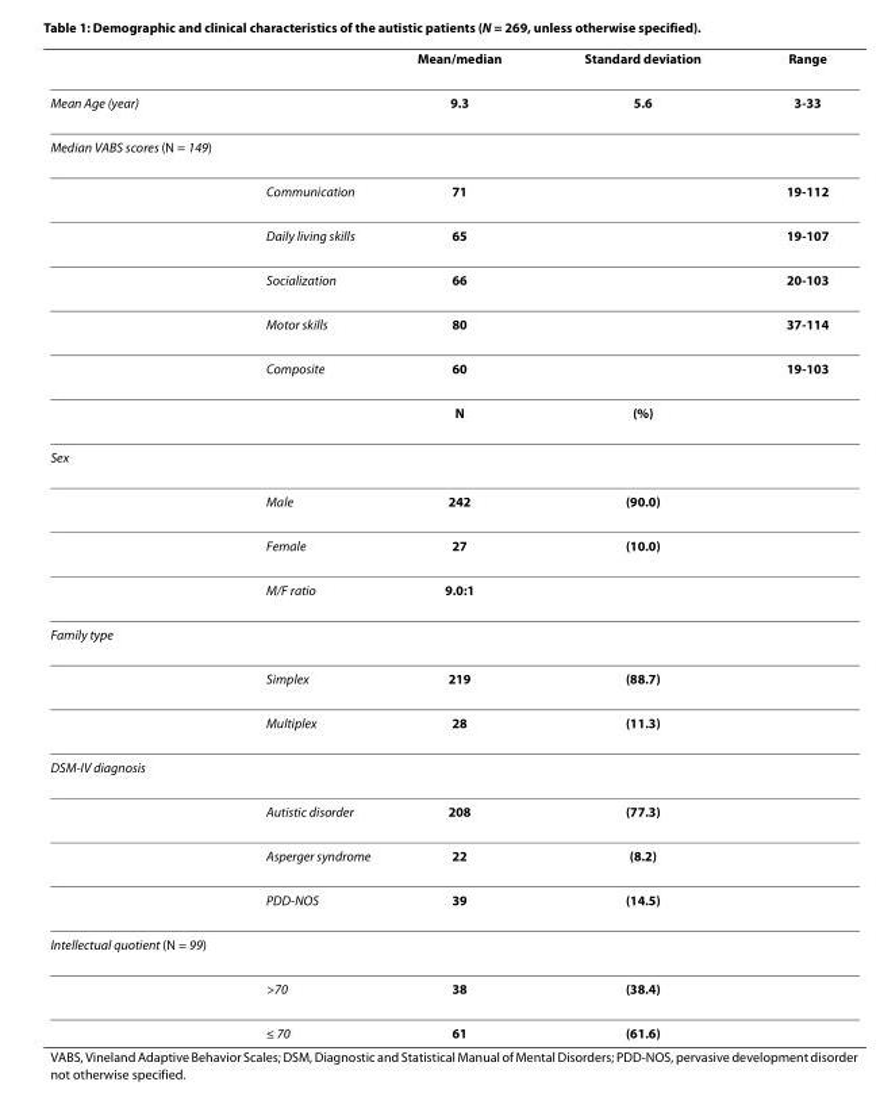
<table><thead><tr><td></td><td></td><td>Mean/median</td><td>Standard deviation</td><td>Range</td></tr></thead><tbody><tr><td>Mean Age (year)</td><td></td><td>9.3</td><td>5.6</td><td>3-33</td></tr><tr><td colspan="5">Median VABS scores (N = 149)</td></tr><tr><td></td><td>Communication</td><td>71</td><td></td><td>19-112</td></tr><tr><td></td><td>Daily living skills</td><td>65</td><td></td><td>19-107</td></tr><tr><td></td><td>Socialization</td><td>66</td><td></td><td>20-103</td></tr><tr><td></td><td>Motor skills</td><td>80</td><td></td><td>37-114</td></tr><tr><td></td><td>Composite</td><td>60</td><td></td><td>19-103</td></tr><tr><td></td><td></td><td>N</td><td>(%)</td><td></td></tr><tr><td colspan="5">Sex</td></tr><tr><td></td><td>Male</td><td>242</td><td>(90.0)</td><td></td></tr><tr><td></td><td>Female</td><td>27</td><td>(10.0)</td><td></td></tr><tr><td></td><td>M/F ratio</td><td>9.0:1</td><td></td><td></td></tr><tr><td colspan="5">Family type</td></tr><tr><td></td><td>Simplex</td><td>219</td><td>(88.7)</td><td></td></tr><tr><td></td><td>Multiplex</td><td>28</td><td>(11.3)</td><td></td></tr><tr><td colspan="5">DSM-IV diagnosis</td></tr><tr><td></td><td>Autistic disorder</td><td>208</td><td>(77.3)</td><td></td></tr><tr><td></td><td>Asperger syndrome</td><td>22</td><td>(8.2)</td><td></td></tr><tr><td></td><td>PDD-NOS</td><td>39</td><td>(14.5)</td><td></td></tr><tr><td colspan="5">Intellectual quotient (N = 99)</td></tr><tr><td></td><td>&gt;70</td><td>38</td><td>(38.4)</td><td></td></tr><tr><td></td><td>≤ 70</td><td>61</td><td>(61.6)</td><td></td></tr></tbody></table>